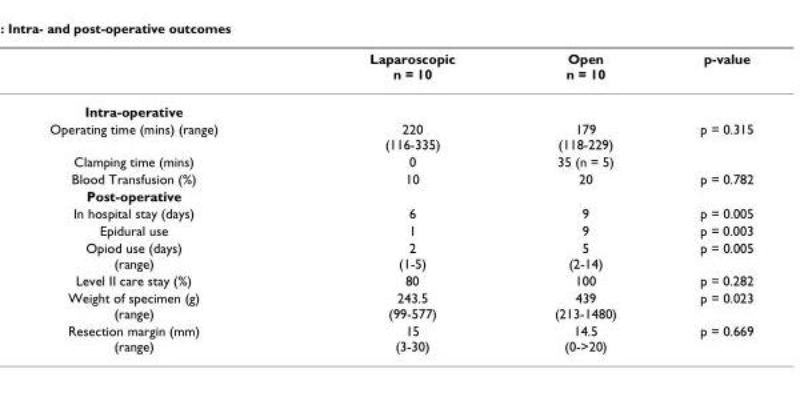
<table><thead><tr><td></td><td>Laparoscopic n = 10</td><td>Open n = 10</td><td>p-value</td></tr></thead><tbody><tr><td colspan="4">Intra-operative</td></tr><tr><td>Operating time (mins) (range)</td><td>220 (116-335)</td><td>179 (118-229)</td><td>p = 0.315</td></tr><tr><td>Clamping time (mins)</td><td>0</td><td>35 (n = 5)</td><td></td></tr><tr><td>Blood Transfusion (%)</td><td>10</td><td>20</td><td>p = 0.782</td></tr><tr><td colspan="4">Post-operative</td></tr><tr><td>In hospital stay (days)</td><td>6</td><td>9</td><td>p = 0.005</td></tr><tr><td>Epidural use</td><td>1</td><td>9</td><td>p = 0.003</td></tr><tr><td>Opiod use (days) (range)</td><td>2 (1-5)</td><td>5 (2-14)</td><td>p = 0.005</td></tr><tr><td>Level II care stay (%)</td><td>80</td><td>100</td><td>p = 0.282</td></tr><tr><td>Weight of specimen (g) (range)</td><td>243.5 (99-577)</td><td>439 (213-1480)</td><td>p = 0.023</td></tr><tr><td>Resection margin (mm) (range)</td><td>15 (3-30)</td><td>14.5 (0-&gt;20)</td><td>p = 0.669</td></tr></tbody></table>